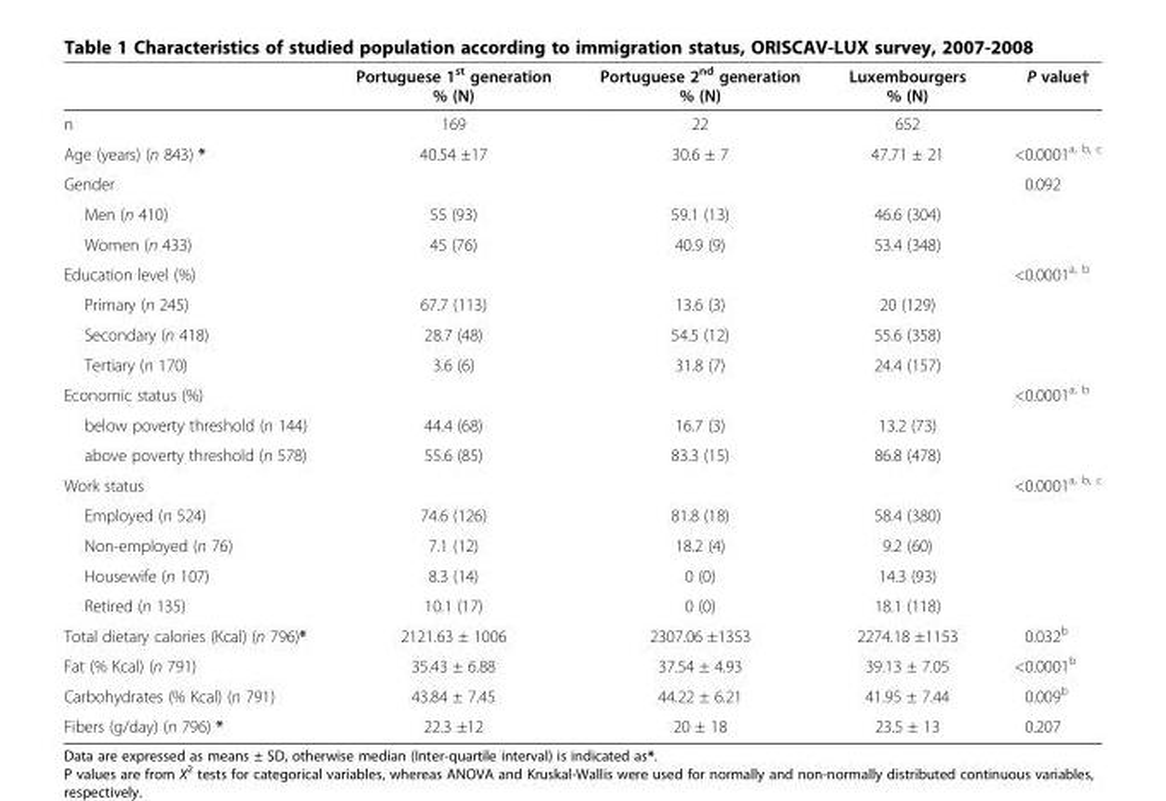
<table><thead><tr><td></td><td>Portuguese 1<sup>st</sup> generation % (N)</td><td>Portuguese 2<sup>nd</sup> generation % (N)</td><td>Luxembourgers % (N)</td><td>P value†</td></tr></thead><tbody><tr><td>n</td><td>169</td><td>22</td><td>652</td><td></td></tr><tr><td>Age (years) (n 843) *</td><td>40.54 ±17</td><td>30.6 ± 7</td><td>47.71 ± 21</td><td>&lt;0.0001<sup>a, b, c</sup></td></tr><tr><td>Gender</td><td></td><td></td><td></td><td>0.092</td></tr><tr><td>Men (n 410)</td><td>55 (93)</td><td>59.1 (13)</td><td>46.6 (304)</td><td></td></tr><tr><td>Women (n 433)</td><td>45 (76)</td><td>40.9 (9)</td><td>53.4 (348)</td><td></td></tr><tr><td>Education level (%)</td><td></td><td></td><td></td><td>&lt;0.0001<sup>a, b</sup></td></tr><tr><td>Primary (n 245)</td><td>67.7 (113)</td><td>13.6 (3)</td><td>20 (129)</td><td></td></tr><tr><td>Secondary (n 418)</td><td>28.7 (48)</td><td>54.5 (12)</td><td>55.6 (358)</td><td></td></tr><tr><td>Tertiary (n 170)</td><td>3.6 (6)</td><td>31.8 (7)</td><td>24.4 (157)</td><td></td></tr><tr><td>Economic status (%)</td><td></td><td></td><td></td><td>&lt;0.0001<sup>a, b</sup></td></tr><tr><td>below poverty threshold (n 144)</td><td>44.4 (68)</td><td>16.7 (3)</td><td>13.2 (73)</td><td></td></tr><tr><td>above poverty threshold (n 578)</td><td>55.6 (85)</td><td>83.3 (15)</td><td>86.8 (478)</td><td></td></tr><tr><td>Work status</td><td></td><td></td><td></td><td>&lt;0.0001<sup>a, b, c</sup></td></tr><tr><td>Employed (n 524)</td><td>74.6 (126)</td><td>81.8 (18)</td><td>58.4 (380)</td><td></td></tr><tr><td>Non-employed (n 76)</td><td>7.1 (12)</td><td>18.2 (4)</td><td>9.2 (60)</td><td></td></tr><tr><td>Housewife (n 107)</td><td>8.3 (14)</td><td>0 (0)</td><td>14.3 (93)</td><td></td></tr><tr><td>Retired (n 135)</td><td>10.1 (17)</td><td>0 (0)</td><td>18.1 (118)</td><td></td></tr><tr><td>Total dietary calories (Kcal) (n 796)*</td><td>2121.63 ± 1006</td><td>2307.06 ±1353</td><td>2274.18 ±1153</td><td>0.032<sup>b</sup></td></tr><tr><td>Fat (% Kcal) (n 791)</td><td>35.43 ± 6.88</td><td>37.54 ± 4.93</td><td>39.13 ± 7.05</td><td>&lt;0.0001<sup>b</sup></td></tr><tr><td>Carbohydrates (% Kcal) (n 791)</td><td>43.84 ± 7.45</td><td>44.22 ± 6.21</td><td>41.95 ± 7.44</td><td>0.009<sup>b</sup></td></tr><tr><td>Fibers (g/day) (n 796) *</td><td>22.3 ±12</td><td>20 ± 18</td><td>23.5 ± 13</td><td>0.207</td></tr></tbody></table>